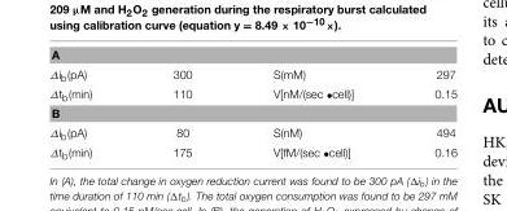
<table><thead><tr><td colspan="4">A</td></tr><tr><td>∆ib(pA)</td><td>300</td><td>S(mM)</td><td>297</td></tr></thead><tbody><tr><td>∆tb(min)</td><td>110</td><td>V[nM/(sec •cell)]</td><td>0.15</td></tr><tr><td colspan="4">B</td></tr><tr><td>∆ib(pA)</td><td>80</td><td>S(nM)</td><td>494</td></tr><tr><td>∆tb(min)</td><td>175</td><td>V[fM/(sec •cell)]</td><td>0.16</td></tr></tbody></table>